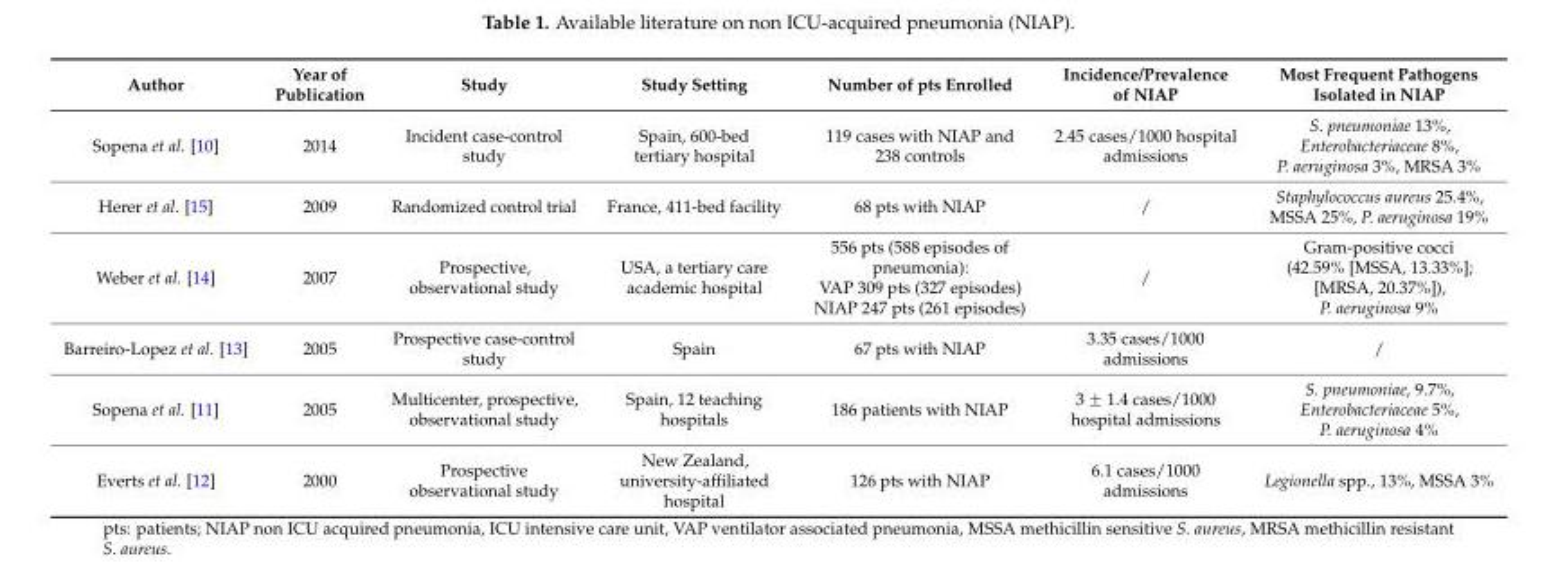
<table><thead><tr><td>Author</td><td>Year of Publication</td><td>Study</td><td>Study Setting</td><td>Number of pts Enrolled</td><td>Incidence/Prevalence of NIAP</td><td>Most Frequent Pathogens Isolated in NIAP</td></tr></thead><tbody><tr><td>Sopena et al. [10]</td><td>2014</td><td>Incident case-control study</td><td>Spain, 600-bed tertiary hospital</td><td>119 cases with NIAP and 238 controls</td><td>2.45 cases/1000 hospital admissions</td><td>S. pneumoniae 13%, Enterobacteriaceae 8%, P. aeruginosa 3%, MRSA 3%</td></tr><tr><td>Herer et al. [15]</td><td>2009</td><td>Randomized control trial</td><td>France, 411-bed facility</td><td>68 pts with NIAP</td><td>/</td><td>Staphylococcus aureus 25.4%, MSSA 25%, P. aeruginosa 19%</td></tr><tr><td>Weber et al. [14]</td><td>2007</td><td>Prospective, observational study</td><td>USA, a tertiary care academic hospital</td><td>556 pts (588 episodes of pneumonia): VAP 309 pts (327 episodes) NIAP 247 pts (261 episodes)</td><td>/</td><td>Gram-positive cocci (42.59% [MSSA, 13.33%]; [MRSA, 20.37%]), P. aeruginosa 9%</td></tr><tr><td>Barreiro-Lopez et al. [13]</td><td>2005</td><td>Prospective case-control study</td><td>Spain</td><td>67 pts with NIAP</td><td>3.35 cases/1000 admissions</td><td>/</td></tr><tr><td>Sopena et al. [11]</td><td>2005</td><td>Multicenter, prospective, observational study</td><td>Spain, 12 teaching hospitals</td><td>186 patients with NIAP</td><td>3 ˘ 1.4 cases/1000 hospital admissions</td><td>S. pneumoniae, 9.7%, Enterobacteriaceae 5%, P. aeruginosa 4%</td></tr><tr><td>Everts et al. [12]</td><td>2000</td><td>Prospective observational study</td><td>New Zealand, university-affiliated hospital</td><td>126 pts with NIAP</td><td>6.1 cases/1000 admissions</td><td>Legionella spp., 13%, MSSA 3%</td></tr></tbody></table>